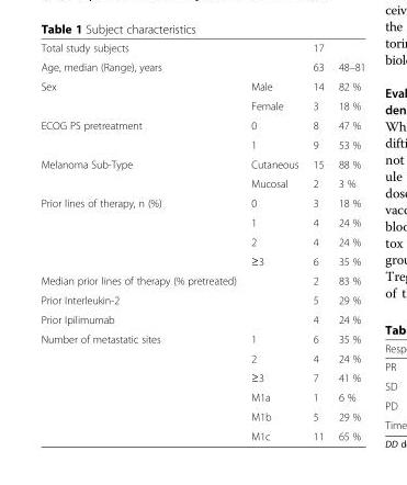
<table><tbody><tr><td>Total study subjects</td><td></td><td>17</td><td></td></tr><tr><td>Age, median (Range), years</td><td></td><td>63</td><td>48–81</td></tr><tr><td rowspan="2">Sex</td><td>Male</td><td>14</td><td>82 %</td></tr><tr><td>Female</td><td>3</td><td>18 %</td></tr><tr><td rowspan="2">ECOG PS pretreatment</td><td>0</td><td>8</td><td>47 %</td></tr><tr><td>1</td><td>9</td><td>53 %</td></tr><tr><td rowspan="2">Melanoma Sub-Type</td><td>Cutaneous</td><td>15</td><td>88 %</td></tr><tr><td>Mucosal</td><td>2</td><td>3 %</td></tr><tr><td rowspan="4">Prior lines of therapy, n (%)</td><td>0</td><td>3</td><td>18 %</td></tr><tr><td>1</td><td>4</td><td>24 %</td></tr><tr><td>2</td><td>4</td><td>24 %</td></tr><tr><td>≥3</td><td>6</td><td>35 %</td></tr><tr><td>Median prior lines of therapy (% pretreated)</td><td></td><td>2</td><td>83 %</td></tr><tr><td>Prior Interleukin-2</td><td></td><td>5</td><td>29 %</td></tr><tr><td>Prior Ipilimumab</td><td></td><td>4</td><td>24 %</td></tr><tr><td rowspan="6">Number of metastatic sites</td><td>1</td><td>6</td><td>35 %</td></tr><tr><td>2</td><td>4</td><td>24 %</td></tr><tr><td>≥3</td><td>7</td><td>41 %</td></tr><tr><td>M1a</td><td>1</td><td>6 %</td></tr><tr><td>M1b</td><td>5</td><td>29 %</td></tr><tr><td>M1c</td><td>11</td><td>65 %</td></tr></tbody></table>